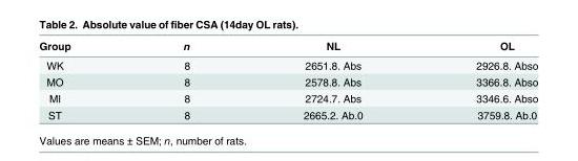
<table><thead><tr><td>Group</td><td>n</td><td>NL</td><td>OL</td></tr></thead><tbody><tr><td>WK</td><td>8</td><td>2651.8. Abs</td><td>2926.8. Abso</td></tr><tr><td>MO</td><td>8</td><td>2578.8. Abs</td><td>3366.8. Abso</td></tr><tr><td>MI</td><td>8</td><td>2724.7. Abs</td><td>3346.6. Abso</td></tr><tr><td>ST</td><td>8</td><td>2665.2. Ab.0</td><td>3759.8. Ab.0</td></tr></tbody></table>